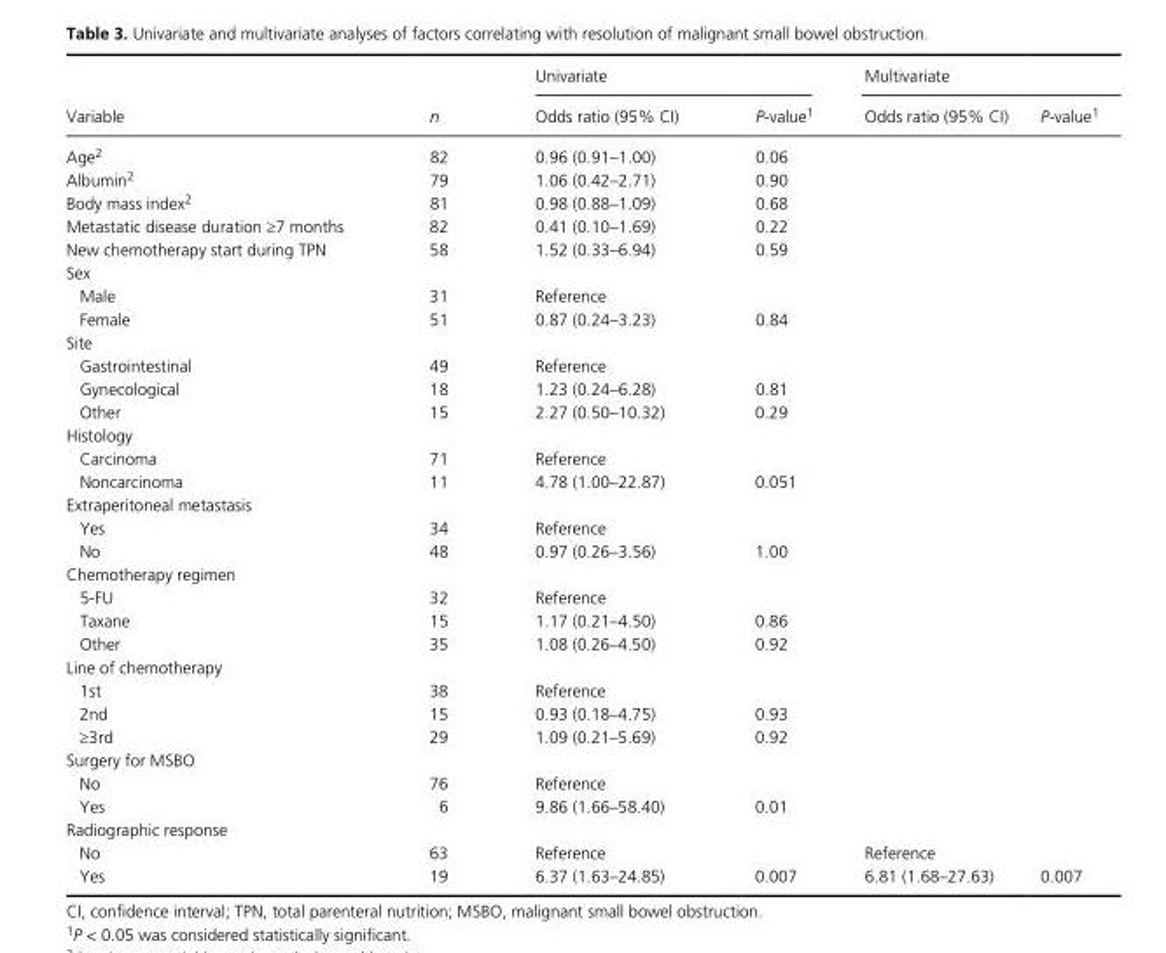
<table><thead><tr><td rowspan="2">Variable</td><td rowspan="2">n</td><td colspan="2">Univariate</td><td colspan="2">Multivariate</td></tr><tr><td>Odds ratio (95% CI)</td><td>P- value1</td><td>Odds ratio (95% CI)</td><td>P- value1</td></tr></thead><tbody><tr><td>Age2</td><td>82</td><td>0.96 (0.91–1.00)</td><td>0.06</td><td></td><td></td></tr><tr><td>Albumin2</td><td>79</td><td>1.06 (0.42–2.71)</td><td>0.90</td><td></td><td></td></tr><tr><td>Body mass index2</td><td>81</td><td>0.98 (0.88–1.09)</td><td>0.68</td><td></td><td></td></tr><tr><td>Metastatic disease duration ≥7 months</td><td>82</td><td>0.41 (0.10–1.69)</td><td>0.22</td><td></td><td></td></tr><tr><td>New chemotherapy start during TPN</td><td>58</td><td>1.52 (0.33–6.94)</td><td>0.59</td><td></td><td></td></tr><tr><td colspan="6">Sex</td></tr><tr><td>Male</td><td>31</td><td>Reference</td><td></td><td></td><td></td></tr><tr><td>Female</td><td>51</td><td>0.87 (0.24–3.23)</td><td>0.84</td><td></td><td></td></tr><tr><td colspan="6">Site</td></tr><tr><td>Gastrointestinal</td><td>49</td><td>Reference</td><td></td><td></td><td></td></tr><tr><td>Gynecological</td><td>18</td><td>1.23 (0.24–6.28)</td><td>0.81</td><td></td><td></td></tr><tr><td>Other</td><td>15</td><td>2.27 (0.50–10.32)</td><td>0.29</td><td></td><td></td></tr><tr><td colspan="6">Histology</td></tr><tr><td>Carcinoma</td><td>71</td><td>Reference</td><td></td><td></td><td></td></tr><tr><td>Noncarcinoma</td><td>11</td><td>4.78 (1.00–22.87)</td><td>0.051</td><td></td><td></td></tr><tr><td colspan="6">Extraperitoneal metastasis</td></tr><tr><td>Yes</td><td>34</td><td>Reference</td><td></td><td></td><td></td></tr><tr><td>No</td><td>48</td><td>0.97 (0.26–3.56)</td><td>1.00</td><td></td><td></td></tr><tr><td colspan="6">Chemotherapy regimen</td></tr><tr><td>5- FU</td><td>32</td><td>Reference</td><td></td><td></td><td></td></tr><tr><td>Taxane</td><td>15</td><td>1.17 (0.21–4.50)</td><td>0.86</td><td></td><td></td></tr><tr><td>Other</td><td>35</td><td>1.08 (0.26–4.50)</td><td>0.92</td><td></td><td></td></tr><tr><td colspan="6">Line of chemotherapy</td></tr><tr><td>1st</td><td>38</td><td>Reference</td><td></td><td></td><td></td></tr><tr><td>2nd</td><td>15</td><td>0.93 (0.18–4.75)</td><td>0.93</td><td></td><td></td></tr><tr><td>≥3rd</td><td>29</td><td>1.09 (0.21–5.69)</td><td>0.92</td><td></td><td></td></tr><tr><td colspan="6">Surgery for MSBO</td></tr><tr><td>No</td><td>76</td><td>Reference</td><td></td><td></td><td></td></tr><tr><td>Yes</td><td>6</td><td>9.86 (1.66–58.40)</td><td>0.01</td><td></td><td></td></tr><tr><td colspan="6">Radiographic response</td></tr><tr><td>No</td><td>63</td><td>Reference</td><td></td><td>Reference</td><td></td></tr><tr><td>Yes</td><td>19</td><td>6.37 (1.63–24.85)</td><td>0.007</td><td>6.81 (1.68–27.63)</td><td>0.007</td></tr></tbody></table>